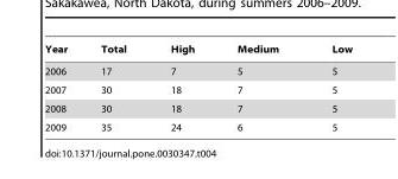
<table><thead><tr><td>Year</td><td>Total</td><td>High</td><td>Medium</td><td>Low</td></tr></thead><tbody><tr><td>2006</td><td>17</td><td>7</td><td>5</td><td>5</td></tr><tr><td>2007</td><td>30</td><td>18</td><td>7</td><td>5</td></tr><tr><td>2008</td><td>30</td><td>18</td><td>7</td><td>5</td></tr><tr><td>2009</td><td>35</td><td>24</td><td>6</td><td>5</td></tr></tbody></table>